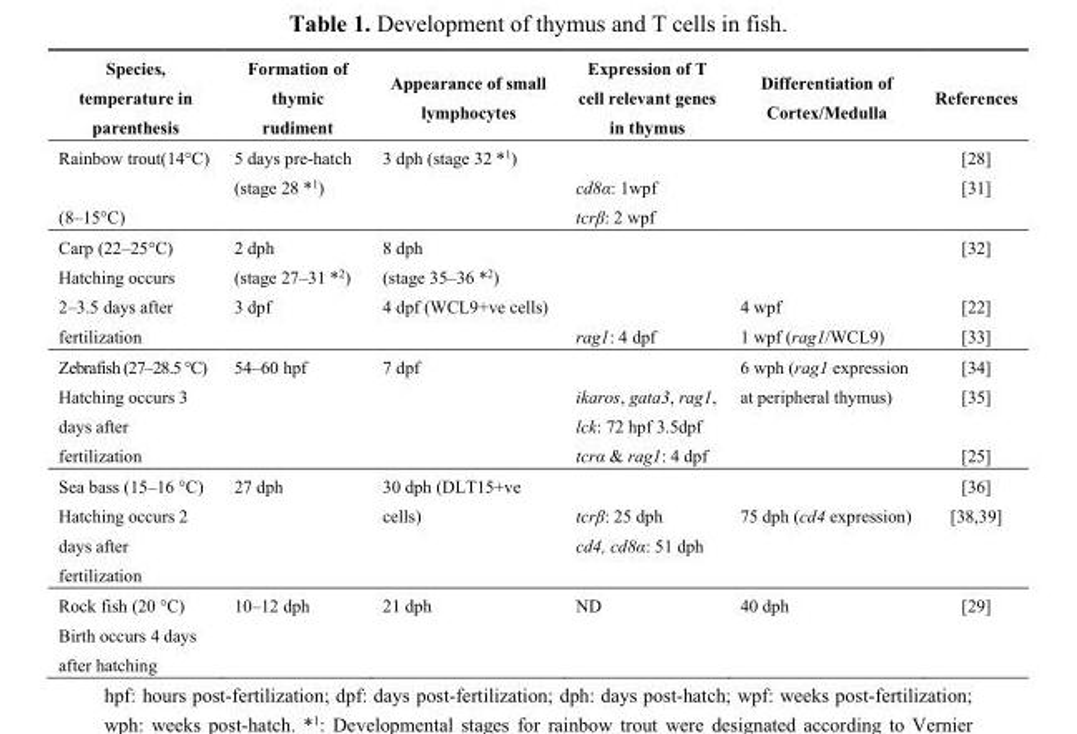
<table><thead><tr><td>Species, temperature in parenthesis</td><td>Formation of thymic rudiment</td><td>Appearance of small lymphocytes</td><td>Expression of T cell relevant genes in thymus</td><td>Differentiation of Cortex/Medulla</td><td>References</td></tr></thead><tbody><tr><td>Rainbow trout(14°C) (8–15°C)</td><td>5 days pre-hatch (stage 28 *<sup>1</sup>)</td><td>3 dph (stage 32 *<sup>1</sup>)</td><td>cd8α: 1wpf tcrβ: 2 wpf</td><td></td><td>[28] [31]</td></tr><tr><td>Carp (22–25°C) Hatching occurs 2–3.5 days after fertilization</td><td>2 dph (stage 27–31 *<sup>2</sup>) 3 dpf</td><td>8 dph (stage 35–36 *<sup>2</sup>) 4 dpf (WCL9+ve cells)</td><td>rag1: 4 dpf</td><td>4 wpf 1 wpf (rag1/WCL9)</td><td>[32] [22] [33]</td></tr><tr><td>Zebrafish (27–28.5 °C) Hatching occurs 3 days after fertilization</td><td>54–60 hpf</td><td>7 dpf</td><td>ikaros, gata3, rag1, lck: 72 hpf 3.5dpf tcrα &amp; rag1: 4 dpf</td><td>6 wph (rag1 expression at peripheral thymus)</td><td>[34] [35] [25]</td></tr><tr><td>Sea bass (15–16 °C) Hatching occurs 2 days after fertilization</td><td>27 dph</td><td>30 dph (DLT15+ve cells)</td><td>tcrβ: 25 dph cd4, cd8α: 51 dph</td><td>75 dph (cd4 expression)</td><td>[36] [38,39]</td></tr><tr><td>Rock fish (20 °C) Birth occurs 4 days after hatching</td><td>10–12 dph</td><td>21 dph</td><td>ND</td><td>40 dph</td><td>[29]</td></tr></tbody></table>